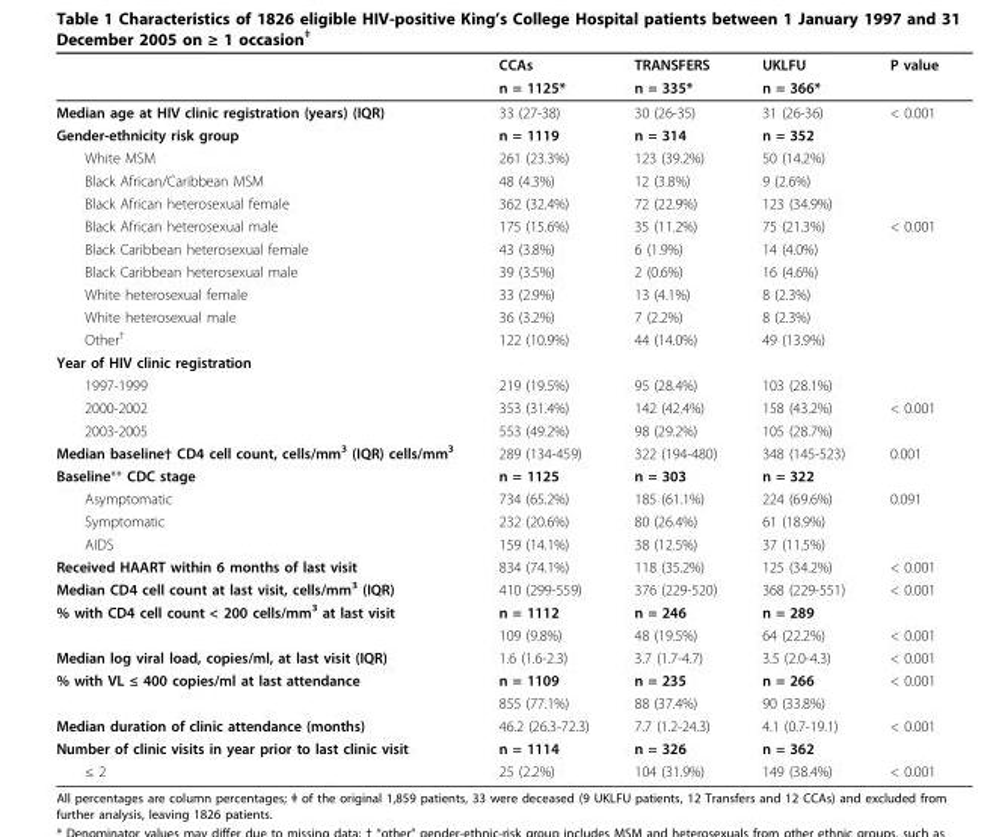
<table><thead><tr><td rowspan="2"></td><td rowspan="2">CCAs n = 1125*</td><td rowspan="2">TRANSFERS n = 335*</td><td rowspan="2">UKLFU n = 366*</td><td rowspan="2">P value</td></tr><tr></tr></thead><tbody><tr><td>Median age at HIV clinic registration (years) (IQR)</td><td>33 (27-38)</td><td>30 (26-35)</td><td>31 (26-36)</td><td>&lt; 0.001</td></tr><tr><td>Gender-ethnicity risk group</td><td>n = 1119</td><td>n = 314</td><td>n = 352</td><td></td></tr><tr><td>White MSM</td><td>261 (23.3%)</td><td>123 (39.2%)</td><td>50 (14.2%)</td><td></td></tr><tr><td>Black African/Caribbean MSM</td><td>48 (4.3%)</td><td>12 (3.8%)</td><td>9 (2.6%)</td><td></td></tr><tr><td>Black African heterosexual female</td><td>362 (32.4%)</td><td>72 (22.9%)</td><td>123 (34.9%)</td><td></td></tr><tr><td>Black African heterosexual male</td><td>175 (15.6%)</td><td>35 (11.2%)</td><td>75 (21.3%)</td><td>&lt; 0.001</td></tr><tr><td>Black Caribbean heterosexual female</td><td>43 (3.8%)</td><td>6 (1.9%)</td><td>14 (4.0%)</td><td></td></tr><tr><td>Black Caribbean heterosexual male</td><td>39 (3.5%)</td><td>2 (0.6%)</td><td>16 (4.6%)</td><td></td></tr><tr><td>White heterosexual female</td><td>33 (2.9%)</td><td>13 (4.1%)</td><td>8 (2.3%)</td><td></td></tr><tr><td>White heterosexual male</td><td>36 (3.2%)</td><td>7 (2.2%)</td><td>8 (2.3%)</td><td></td></tr><tr><td>Other<sup>†</sup></td><td>122 (10.9%)</td><td>44 (14.0%)</td><td>49 (13.9%)</td><td></td></tr><tr><td colspan="5">Year of HIV clinic registration</td></tr><tr><td>1997-1999</td><td>219 (19.5%)</td><td>95 (28.4%)</td><td>103 (28.1%)</td><td></td></tr><tr><td>2000-2002</td><td>353 (31.4%)</td><td>142 (42.4%)</td><td>158 (43.2%)</td><td>&lt; 0.001</td></tr><tr><td>2003-2005</td><td>553 (49.2%)</td><td>98 (29.2%)</td><td>105 (28.7%)</td><td></td></tr><tr><td>Median baseline† CD4 cell count, cells/mm<sup>3</sup> (IQR) cells/mm<sup>3</sup></td><td>289 (134-459)</td><td>322 (194-480)</td><td>348 (145-523)</td><td>0.001</td></tr><tr><td>Baseline** CDC stage</td><td>n = 1125</td><td>n = 303</td><td>n = 322</td><td></td></tr><tr><td>Asymptomatic</td><td>734 (65.2%)</td><td>185 (61.1%)</td><td>224 (69.6%)</td><td>0.091</td></tr><tr><td>Symptomatic</td><td>232 (20.6%)</td><td>80 (26.4%)</td><td>61 (18.9%)</td><td></td></tr><tr><td>AIDS</td><td>159 (14.1%)</td><td>38 (12.5%)</td><td>37 (11.5%)</td><td></td></tr><tr><td>Received HAART within 6 months of last visit</td><td>834 (74.1%)</td><td>118 (35.2%)</td><td>125 (34.2%)</td><td>&lt; 0.001</td></tr><tr><td>Median CD4 cell count at last visit, cells/mm<sup>3</sup> (IQR)</td><td>410 (299-559)</td><td>376 (229-520)</td><td>368 (229-551)</td><td>&lt; 0.001</td></tr><tr><td rowspan="2">% with CD4 cell count &lt; 200 cells/mm<sup>3</sup> at last visit</td><td>n = 1112</td><td>n = 246</td><td>n = 289</td><td></td></tr><tr><td>109 (9.8%)</td><td>48 (19.5%)</td><td>64 (22.2%)</td><td>&lt; 0.001</td></tr><tr><td>Median log viral load, copies/ml, at last visit (IQR)</td><td>1.6 (1.6-2.3)</td><td>3.7 (1.7-4.7)</td><td>3.5 (2.0-4.3)</td><td>&lt; 0.001</td></tr><tr><td rowspan="2">% with VL ≤ 400 copies/ml at last attendance</td><td>n = 1109</td><td>n = 235</td><td>n = 266</td><td>&lt; 0.001</td></tr><tr><td>855 (77.1%)</td><td>88 (37.4%)</td><td>90 (33.8%)</td><td></td></tr><tr><td>Median duration of clinic attendance (months)</td><td>46.2 (26.3-72.3)</td><td>7.7 (1.2-24.3)</td><td>4.1 (0.7-19.1)</td><td>&lt; 0.001</td></tr><tr><td>Number of clinic visits in year prior to last clinic visit</td><td>n = 1114</td><td>n = 326</td><td>n = 362</td><td></td></tr><tr><td>≤ 2</td><td>25 (2.2%)</td><td>104 (31.9%)</td><td>149 (38.4%)</td><td>&lt; 0.001</td></tr></tbody></table>